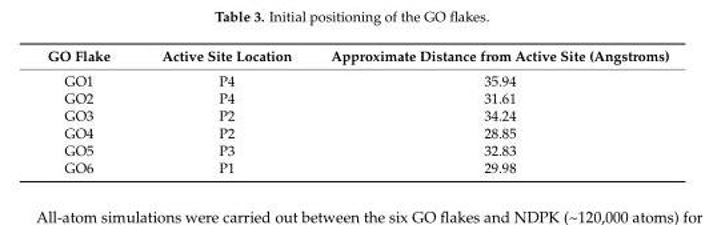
<table><thead><tr><td>GO Flake</td><td>Active Site Location</td><td>Approximate Distance from Active Site (Angstroms)</td></tr></thead><tbody><tr><td>GO1</td><td>P4</td><td>35.94</td></tr><tr><td>GO2</td><td>P4</td><td>31.61</td></tr><tr><td>GO3</td><td>P2</td><td>34.24</td></tr><tr><td>GO4</td><td>P2</td><td>28.85</td></tr><tr><td>GO5</td><td>P3</td><td>32.83</td></tr><tr><td>GO6</td><td>P1</td><td>29.98</td></tr></tbody></table>